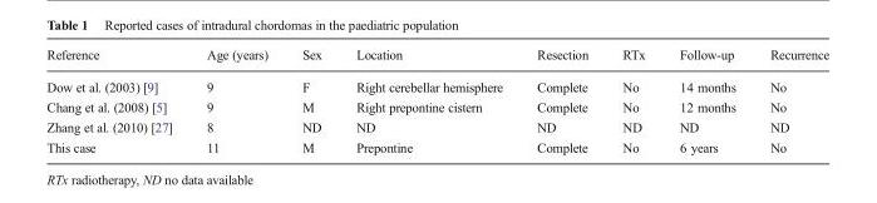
<table><thead><tr><td>Reference</td><td>Age (years)</td><td>Sex</td><td>Location</td><td>Resection</td><td>RTx</td><td>Follow-up</td><td>Recurrence</td></tr></thead><tbody><tr><td>Dow et al. (2003) [9]</td><td>9</td><td>F</td><td>Right cerebellar hemisphere</td><td>Complete</td><td>No</td><td>14 months</td><td>No</td></tr><tr><td>Chang et al. (2008) [5]</td><td>9</td><td>M</td><td>Right prepontine cistern</td><td>Complete</td><td>No</td><td>12 months</td><td>No</td></tr><tr><td>Zhang et al. (2010) [27]</td><td>8</td><td>ND</td><td>ND</td><td>ND</td><td>ND</td><td>ND</td><td>ND</td></tr><tr><td>This case</td><td>11</td><td>M</td><td>Prepontine</td><td>Complete</td><td>No</td><td>6 years</td><td>No</td></tr></tbody></table>